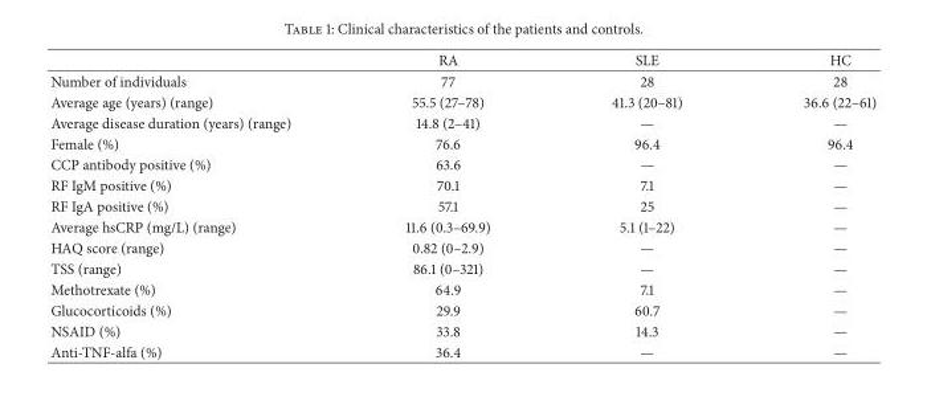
<table><thead><tr><td></td><td>RA</td><td>SLE</td><td>HC</td></tr></thead><tbody><tr><td>Number of individuals</td><td>77</td><td>28</td><td>28</td></tr><tr><td>Average age (years) (range)</td><td>55.5 (27–78)</td><td>41.3 (20–81)</td><td>36.6 (22–61)</td></tr><tr><td>Average disease duration (years) (range)</td><td>14.8 (2–41)</td><td>—</td><td>—</td></tr><tr><td>Female (%)</td><td>76.6</td><td>96.4</td><td>96.4</td></tr><tr><td>CCP antibody positive (%)</td><td>63.6</td><td>—</td><td>—</td></tr><tr><td>RF IgM positive (%)</td><td>70.1</td><td>7.1</td><td>—</td></tr><tr><td>RF IgA positive (%)</td><td>57.1</td><td>25</td><td>—</td></tr><tr><td>Average hsCRP (mg/L) (range)</td><td>11.6 (0.3–69.9)</td><td>5.1 (1–22)</td><td>—</td></tr><tr><td>HAQ score (range)</td><td>0.82 (0–2.9)</td><td>—</td><td>—</td></tr><tr><td>TSS (range)</td><td>86.1 (0–321)</td><td>—</td><td>—</td></tr><tr><td>Methotrexate (%)</td><td>64.9</td><td>7.1</td><td>—</td></tr><tr><td>Glucocorticoids (%)</td><td>29.9</td><td>60.7</td><td>—</td></tr><tr><td>NSAID (%)</td><td>33.8</td><td>14.3</td><td>—</td></tr><tr><td>Anti-TNF-alfa (%)</td><td>36.4</td><td>—</td><td>—</td></tr></tbody></table>